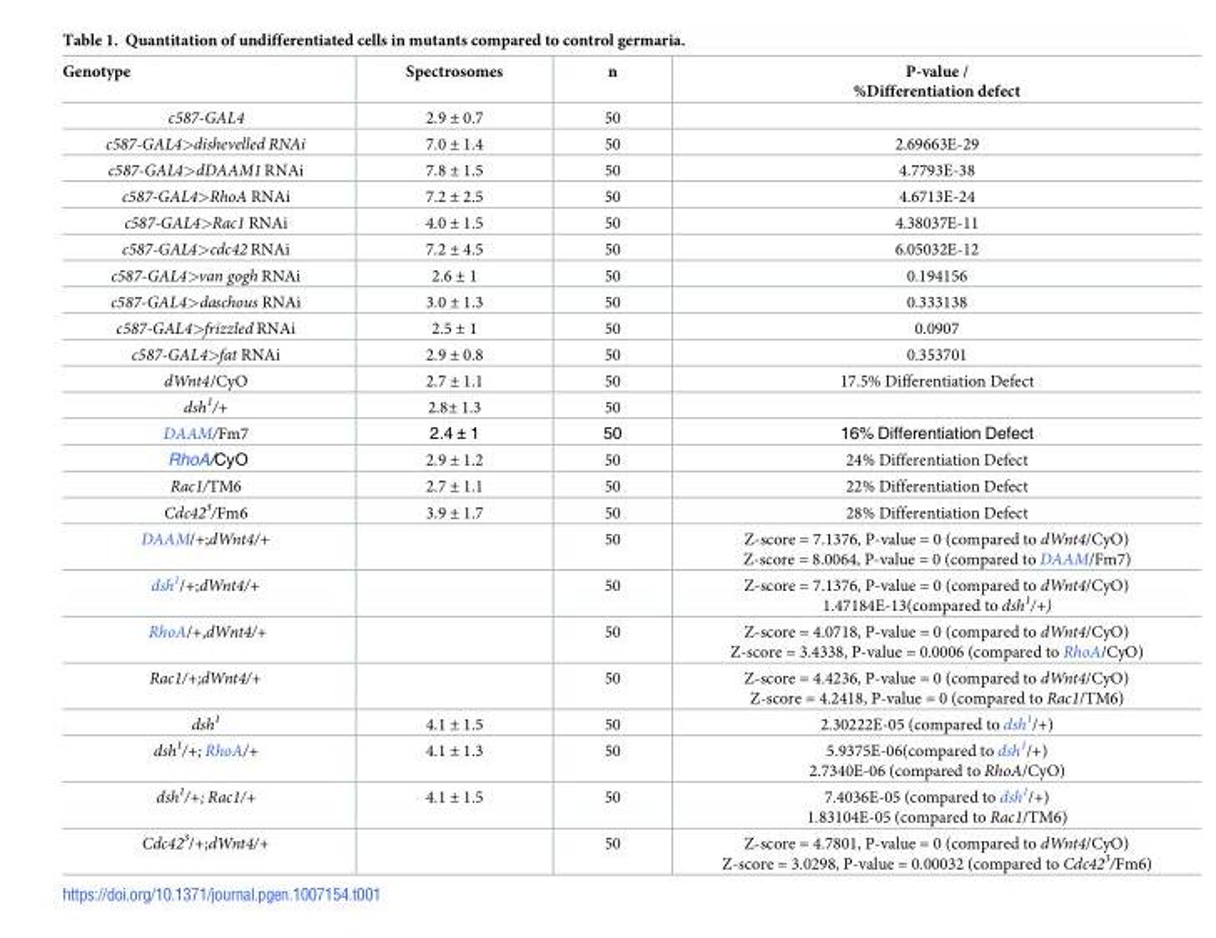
<table><thead><tr><td>Genotype</td><td>Spectrosomes</td><td>n</td><td>P-value / %Differentiation defect</td></tr></thead><tbody><tr><td>c587-GAL4</td><td>2.9 ± 0.7</td><td>50</td><td></td></tr><tr><td>c587-GAL4&gt;dishevelled RNAi</td><td>7.0 ± 1.4</td><td>50</td><td>2.69663E-29</td></tr><tr><td>c587-GAL4&gt;dDAAM1 RNAi</td><td>7.8 ± 1.5</td><td>50</td><td>4.7793E-38</td></tr><tr><td>c587-GAL4&gt;RhoA RNAi</td><td>7.2 ± 2.5</td><td>50</td><td>4.6713E-24</td></tr><tr><td>c587-GAL4&gt;Rac1 RNAi</td><td>4.0 ± 1.5</td><td>50</td><td>4.38037E-11</td></tr><tr><td>c587-GAL4&gt;cdc42 RNAi</td><td>7.2 ± 4.5</td><td>50</td><td>6.05032E-12</td></tr><tr><td>c587-GAL4&gt;van gogh RNAi</td><td>2.6 ± 1</td><td>50</td><td>0.194156</td></tr><tr><td>c587-GAL4&gt;daschous RNAi</td><td>3.0 ± 1.3</td><td>50</td><td>0.333138</td></tr><tr><td>c587-GAL4&gt;frizzled RNAi</td><td>2.5 ± 1</td><td>50</td><td>0.0907</td></tr><tr><td>c587-GAL4&gt;fat RNAi</td><td>2.9 ± 0.8</td><td>50</td><td>0.353701</td></tr><tr><td>dWnt4/CyO</td><td>2.7 ± 1.1</td><td>50</td><td>17.5% Differentiation Defect</td></tr><tr><td>dsh<sup>1</sup>/+</td><td>2.8± 1.3</td><td>50</td><td></td></tr><tr><td>DAAM/Fm7</td><td>2.4 ± 1</td><td>50</td><td>16% Differentiation Defect</td></tr><tr><td>RhoA/CyO</td><td>2.9 ± 1.2</td><td>50</td><td>24% Differentiation Defect</td></tr><tr><td>Rac1/TM6</td><td>2.7 ± 1.1</td><td>50</td><td>22% Differentiation Defect</td></tr><tr><td>Cdc42<sup>3</sup>/Fm6</td><td>3.9 ± 1.7</td><td>50</td><td>28% Differentiation Defect</td></tr><tr><td>DAAM/+;dWnt4/+</td><td></td><td>50</td><td>Z-score = 7.1376, P-value = 0 (compared to dWnt4/CyO) Z-score = 8.0064, P-value = 0 (compared to DAAM/Fm7)</td></tr><tr><td>dsh<sup>1</sup>/+;dWnt4/+</td><td></td><td>50</td><td>Z-score = 7.1376, P-value = 0 (compared to dWnt4/CyO) 1.47184E-13(compared to dsh<sup>1</sup>/+)</td></tr><tr><td>RhoA/+,dWnt4/+</td><td></td><td>50</td><td>Z-score = 4.0718, P-value = 0 (compared to dWnt4/CyO) Z-score = 3.4338, P-value = 0.0006 (compared to RhoA/CyO)</td></tr><tr><td>Rac1/+;dWnt4/+</td><td></td><td>50</td><td>Z-score = 4.4236, P-value = 0 (compared to dWnt4/CyO) Z-score = 4.2418, P-value = 0 (compared to Rac1/TM6)</td></tr><tr><td>dsh<sup>1</sup></td><td>4.1 ± 1.5</td><td>50</td><td>2.30222E-05 (compared to dsh<sup>1</sup>/+)</td></tr><tr><td>dsh<sup>1</sup>/+; RhoA/+</td><td>4.1 ± 1.3</td><td>50</td><td>5.9375E-06(compared to dsh<sup>1</sup>/+) 2.7340E-06 (compared to RhoA/CyO)</td></tr><tr><td>dsh<sup>1</sup>/+; Rac1/+</td><td>4.1 ± 1.5</td><td>50</td><td>7.4036E-05 (compared to dsh<sup>1</sup>/+) 1.83104E-05 (compared to Rac1/TM6)</td></tr><tr><td>Cdc42<sup>3</sup>/+;dWnt4/+</td><td></td><td>50</td><td>Z-score = 4.7801, P-value = 0 (compared to dWnt4/CyO) Z-score = 3.0298, P-value = 0.00032 (compared to Cdc42<sup>3</sup>/Fm6)</td></tr></tbody></table>